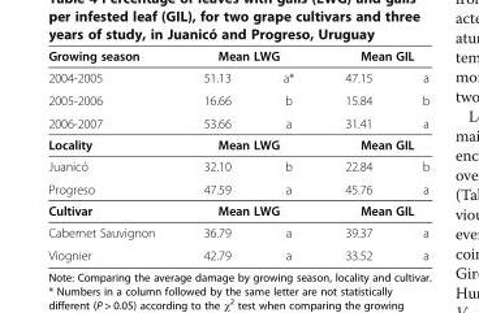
<table><tbody><tr><td>Growing season</td><td colspan="2">Mean LWG</td><td colspan="2">Mean GIL</td></tr><tr><td>2004-2005</td><td>51.13</td><td>a*</td><td>47.15</td><td>a</td></tr><tr><td>2005-2006</td><td>16.66</td><td>b</td><td>15.84</td><td>b</td></tr><tr><td>2006-2007</td><td>53.66</td><td>a</td><td>31.41</td><td>a</td></tr><tr><td>Locality</td><td colspan="2">Mean LWG</td><td colspan="2">Mean GIL</td></tr><tr><td>Juanicó</td><td>32.10</td><td>b</td><td>22.84</td><td>b</td></tr><tr><td>Progreso</td><td>47.59</td><td>a</td><td>45.76</td><td>a</td></tr><tr><td>Cultivar</td><td colspan="2">Mean LWG</td><td colspan="2">Mean GIL</td></tr><tr><td>Cabernet Sauvignon</td><td>36.79</td><td>a</td><td>39.37</td><td>a</td></tr><tr><td>Viognier</td><td>42.79</td><td>a</td><td>33.52</td><td>a</td></tr></tbody></table>